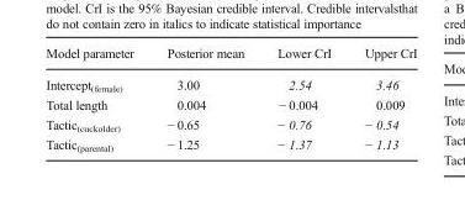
<table><thead><tr><td>Model parameter</td><td>Posterior mean</td><td>Lower CrI</td><td>Upper CrI</td></tr></thead><tbody><tr><td>Intercept<sub>(female)</sub></td><td>3.00</td><td>2.54</td><td>3.46</td></tr><tr><td>Total length</td><td>0.004</td><td>− 0.004</td><td>0.009</td></tr><tr><td>Tactic<sub>(cuckolder)</sub></td><td>− 0.65</td><td>− 0.76</td><td>− 0.54</td></tr><tr><td>Tactic<sub>(parental)</sub></td><td>− 1.25</td><td>− 1.37</td><td>− 1.13</td></tr></tbody></table>